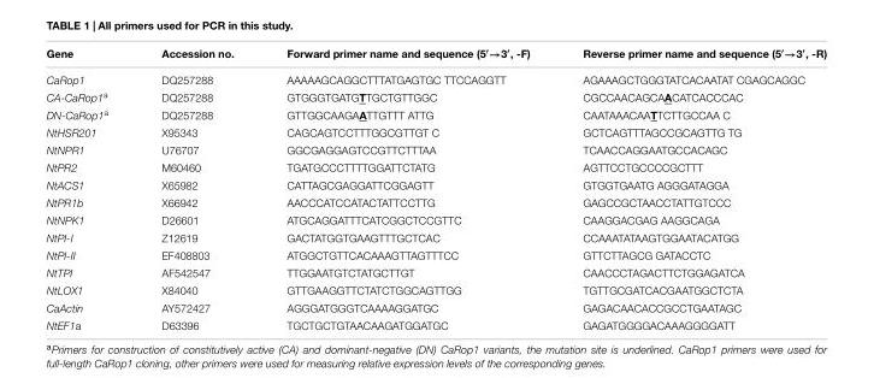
<table><thead><tr><td>Gene</td><td>Accession no.</td><td>Forward primer name and sequence (5′→3′, -F)</td><td>Reverse primer name and sequence (5′→3′, -R)</td></tr></thead><tbody><tr><td>CaRop1</td><td>DQ257288</td><td>AAAAAGCAGGCTTTATGAGTGC TTCCAGGTT</td><td>AGAAAGCTGGGTATCACAATAT CGAGCAGGC</td></tr><tr><td>CA-CaRop1<sup>a</sup></td><td>DQ257288</td><td>GTGGGTGATGTTGCTGTTGGC</td><td>CGCCAACAGCAACATCACCCAC</td></tr><tr><td>DN-CaRop1<sup>a</sup></td><td>DQ257288</td><td>GTTGGCAAGAATTGTTT ATTG</td><td>CAATAAACAATTCTTGCCAA C</td></tr><tr><td>NtHSR201</td><td>X95343</td><td>CAGCAGTCCTTTGGCGTTGT C</td><td>GCTCAGTTTAGCCGCAGTTG TG</td></tr><tr><td>NtNPR1</td><td>U76707</td><td>GGCGAGGAGTCCGTTCTTTAA</td><td>TCAACCAGGAATGCCACAGC</td></tr><tr><td>NtPR2</td><td>M60460</td><td>TGATGCCCTTTTGGATTCTATG</td><td>AGTTCCTGCCCCGCTTT</td></tr><tr><td>NtACS1</td><td>X65982</td><td>CATTAGCGAGGATTCGGAGTT</td><td>GTGGTGAATG AGGGATAGGA</td></tr><tr><td>NtPR1b</td><td>X66942</td><td>AACCCATCCATACTATTCCTTG</td><td>GAGCCGCTAACCTATTGTCCC</td></tr><tr><td>NtNPK1</td><td>D26601</td><td>ATGCAGGATTTCATCGGCTCCGTTC</td><td>CAAGGACGAG AAGGCAGA</td></tr><tr><td>NtPI-I</td><td>Z12619</td><td>GACTATGGTGAAGTTTGCTCAC</td><td>CCAAATATAAGTGGAATACATGG</td></tr><tr><td>NtPI-II</td><td>EF408803</td><td>ATGGCTGTTCACAAAGTTAGTTTCC</td><td>GTTCTTAGCG GATACCTC</td></tr><tr><td>NtTPI</td><td>AF542547</td><td>TTGGAATGTCTATGCTTGT</td><td>CAACCCTAGACTTCTGGAGATCA</td></tr><tr><td>NtLOX1</td><td>X84040</td><td>GTTGAAGGTTCTATCTGGCAGTTGG</td><td>TGTTGCGATCACGAATGGCTCTA</td></tr><tr><td>CaActin</td><td>AY572427</td><td>AGGGATGGGTCAAAAGGATGC</td><td>GAGACAACACCGCCTGAATAGC</td></tr><tr><td>NtEF1a</td><td>D63396</td><td>TGCTGCTGTAACAAGATGGATGC</td><td>GAGATGGGGACAAAGGGGATT</td></tr></tbody></table>